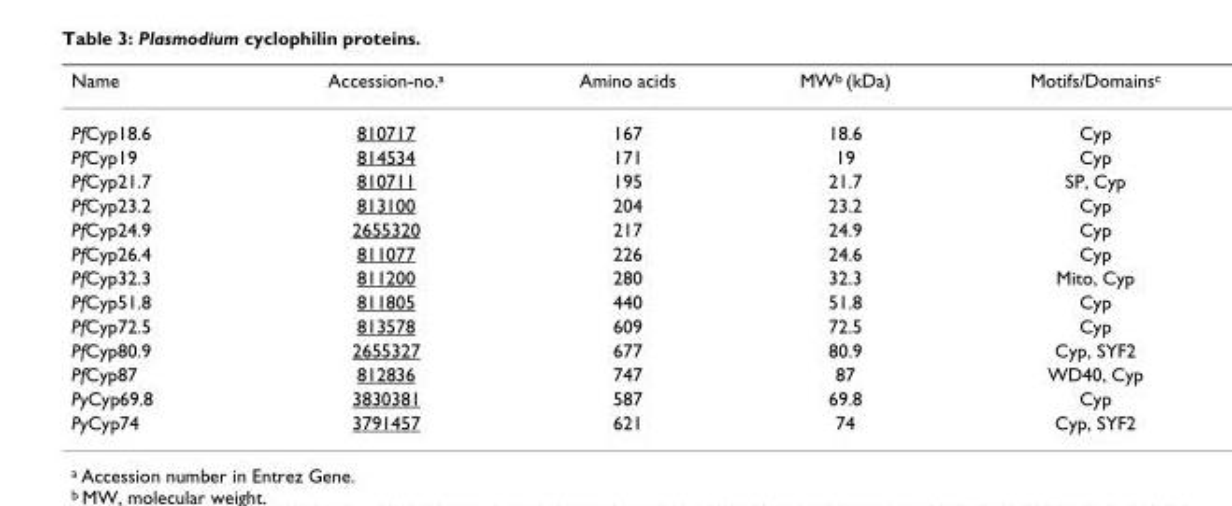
<table><thead><tr><td>Name</td><td>Accession-no.<sup>a</sup></td><td>Amino acids</td><td>MW<sup>b</sup> (kDa)</td><td>Motifs/Domains<sup>c</sup></td></tr></thead><tbody><tr><td>PfCyp18.6</td><td>810717</td><td>167</td><td>18.6</td><td>Cyp</td></tr><tr><td>PfCyp19</td><td>814534</td><td>171</td><td>19</td><td>Cyp</td></tr><tr><td>PfCyp21.7</td><td>810711</td><td>195</td><td>21.7</td><td>SP, Cyp</td></tr><tr><td>PfCyp23.2</td><td>813100</td><td>204</td><td>23.2</td><td>Cyp</td></tr><tr><td>PfCyp24.9</td><td>2655320</td><td>217</td><td>24.9</td><td>Cyp</td></tr><tr><td>PfCyp26.4</td><td>811077</td><td>226</td><td>24.6</td><td>Cyp</td></tr><tr><td>PfCyp32.3</td><td>811200</td><td>280</td><td>32.3</td><td>Mito, Cyp</td></tr><tr><td>PfCyp51.8</td><td>811805</td><td>440</td><td>51.8</td><td>Cyp</td></tr><tr><td>PfCyp72.5</td><td>813578</td><td>609</td><td>72.5</td><td>Cyp</td></tr><tr><td>PfCyp80.9</td><td>2655327</td><td>677</td><td>80.9</td><td>Cyp, SYF2</td></tr><tr><td>PfCyp87</td><td>812836</td><td>747</td><td>87</td><td>WD40, Cyp</td></tr><tr><td>PyCyp69.8</td><td>3830381</td><td>587</td><td>69.8</td><td>Cyp</td></tr><tr><td>PyCyp74</td><td>3791457</td><td>621</td><td>74</td><td>Cyp, SYF2</td></tr></tbody></table>